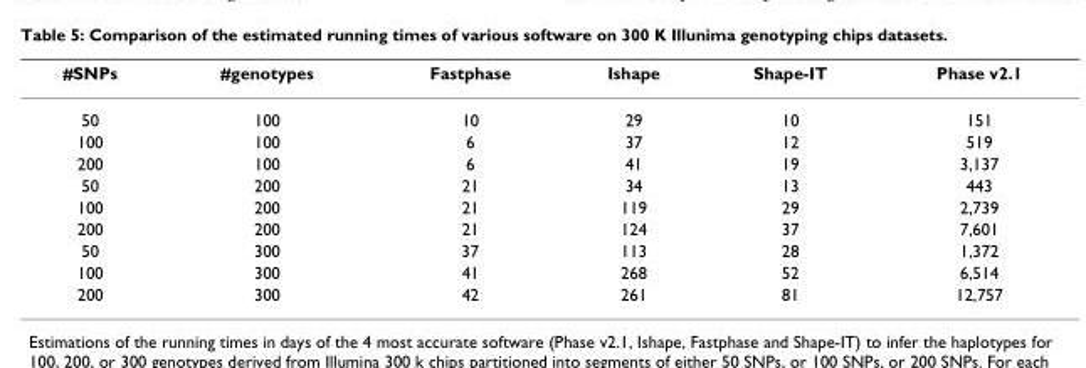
<table><thead><tr><td>#SNPs</td><td>#genotypes</td><td>Fastphase</td><td>Ishape</td><td>Shape-IT</td><td>Phase v2.1</td></tr></thead><tbody><tr><td>50</td><td>100</td><td>10</td><td>29</td><td>10</td><td>151</td></tr><tr><td>100</td><td>100</td><td>6</td><td>37</td><td>12</td><td>519</td></tr><tr><td>200</td><td>100</td><td>6</td><td>41</td><td>19</td><td>3,137</td></tr><tr><td>50</td><td>200</td><td>21</td><td>34</td><td>13</td><td>443</td></tr><tr><td>100</td><td>200</td><td>21</td><td>119</td><td>29</td><td>2,739</td></tr><tr><td>200</td><td>200</td><td>21</td><td>124</td><td>37</td><td>7,601</td></tr><tr><td>50</td><td>300</td><td>37</td><td>113</td><td>28</td><td>1,372</td></tr><tr><td>100</td><td>300</td><td>41</td><td>268</td><td>52</td><td>6,514</td></tr><tr><td>200</td><td>300</td><td>42</td><td>261</td><td>81</td><td>12,757</td></tr></tbody></table>